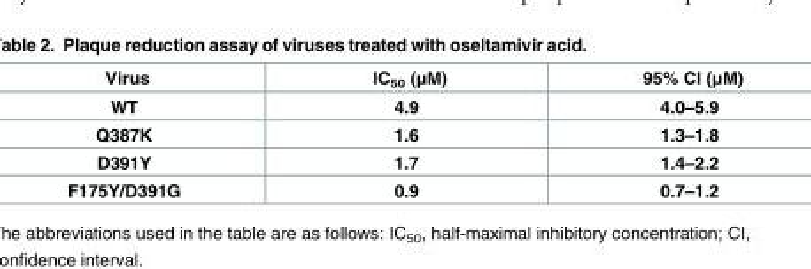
<table><thead><tr><td>Virus</td><td>IC<sub>50</sub> (μM)</td><td>95% CI (μM)</td></tr></thead><tbody><tr><td>WT</td><td>4.9</td><td>4.0–5.9</td></tr><tr><td>Q387K</td><td>1.6</td><td>1.3–1.8</td></tr><tr><td>D391Y</td><td>1.7</td><td>1.4–2.2</td></tr><tr><td>F175Y/D391G</td><td>0.9</td><td>0.7–1.2</td></tr></tbody></table>